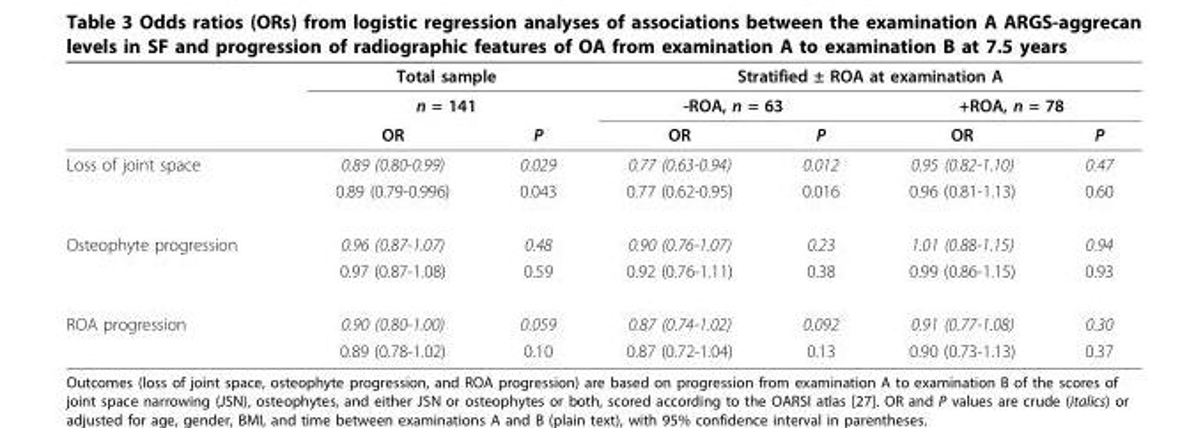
<table><thead><tr><td rowspan="3"></td><td rowspan="2" colspan="2">Total sample n = 141</td><td colspan="4">Stratified ± ROA at examination A</td></tr><tr><td colspan="2">-ROA, n = 63</td><td colspan="2">+ROA, n = 78</td></tr><tr><td>OR</td><td>P</td><td>OR</td><td>P</td><td>OR</td><td>P</td></tr></thead><tbody><tr><td rowspan="2">Loss of joint space</td><td>0.89 (0.80-0.99)</td><td>0.029</td><td>0.77 (0.63-0.94)</td><td>0.012</td><td>0.95 (0.82-1.10)</td><td>0.47</td></tr><tr><td>0.89 (0.79-0.996)</td><td>0.043</td><td>0.77 (0.62-0.95)</td><td>0.016</td><td>0.96 (0.81-1.13)</td><td>0.60</td></tr><tr><td rowspan="2">Osteophyte progression</td><td>0.96 (0.87-1.07)</td><td>0.48</td><td>0.90 (0.76-1.07)</td><td>0.23</td><td>1.01 (0.88-1.15)</td><td>0.94</td></tr><tr><td>0.97 (0.87-1.08)</td><td>0.59</td><td>0.92 (0.76-1.11)</td><td>0.38</td><td>0.99 (0.86-1.15)</td><td>0.93</td></tr><tr><td rowspan="2">ROA progression</td><td>0.90 (0.80-1.00)</td><td>0.059</td><td>0.87 (0.74-1.02)</td><td>0.092</td><td>0.91 (0.77-1.08)</td><td>0.30</td></tr><tr><td>0.89 (0.78-1.02)</td><td>0.10</td><td>0.87 (0.72-1.04)</td><td>0.13</td><td>0.90 (0.73-1.13)</td><td>0.37</td></tr></tbody></table>